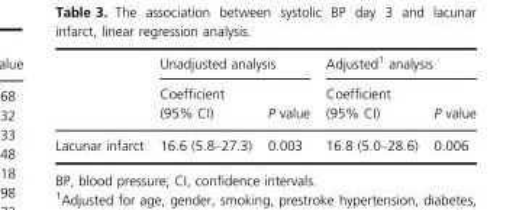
<table><thead><tr><td rowspan="2"></td><td colspan="2">Unadjusted analysis</td><td colspan="2">Adjusted<sup>1</sup> analysis</td></tr><tr><td>Coefficient (95% CI)</td><td>P value</td><td>Coefficient (95% CI)</td><td>P value</td></tr></thead><tbody><tr><td>Lacunar infarct</td><td>16.6 (5.8–27.3)</td><td>0.003</td><td>16.8 (5.0–28.6)</td><td>0.006</td></tr></tbody></table>